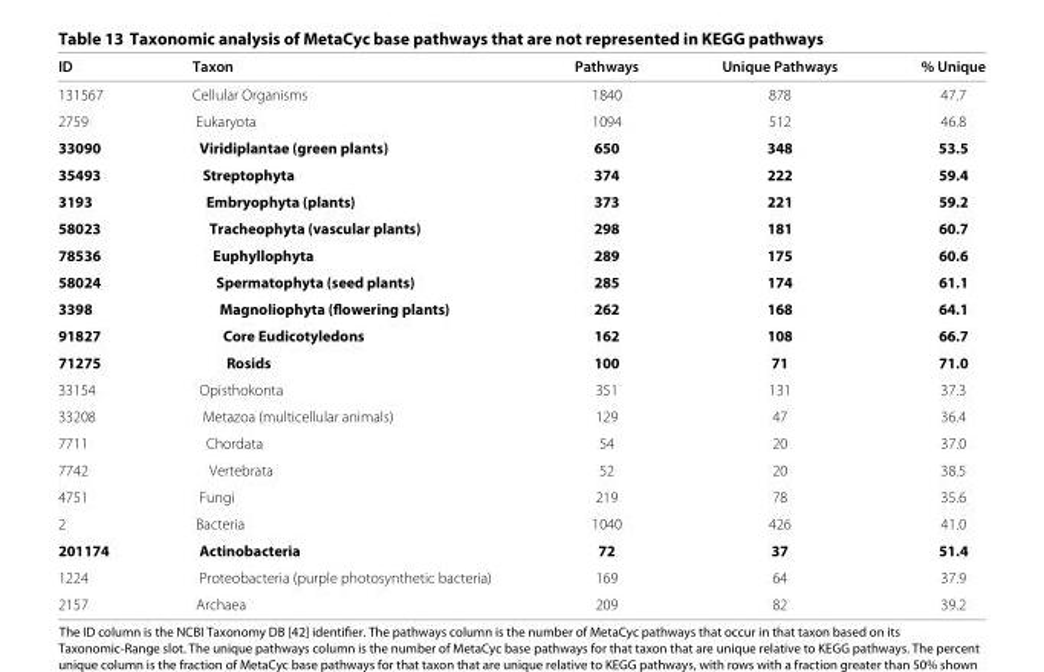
<table><thead><tr><td>ID</td><td>Taxon</td><td>Pathways</td><td>Unique Pathways</td><td>% Unique</td></tr></thead><tbody><tr><td>131567</td><td>Cellular Organisms</td><td>1840</td><td>878</td><td>47.7</td></tr><tr><td>2759</td><td>Eukaryota</td><td>1094</td><td>512</td><td>46.8</td></tr><tr><td>33090</td><td>Viridiplantae (green plants)</td><td>650</td><td>348</td><td>53.5</td></tr><tr><td>35493</td><td>Streptophyta</td><td>374</td><td>222</td><td>59.4</td></tr><tr><td>3193</td><td>Embryophyta (plants)</td><td>373</td><td>221</td><td>59.2</td></tr><tr><td>58023</td><td>Tracheophyta (vascular plants)</td><td>298</td><td>181</td><td>60.7</td></tr><tr><td>78536</td><td>Euphyllophyta</td><td>289</td><td>175</td><td>60.6</td></tr><tr><td>58024</td><td>Spermatophyta (seed plants)</td><td>285</td><td>174</td><td>61.1</td></tr><tr><td>3398</td><td>Magnoliophyta (flowering plants)</td><td>262</td><td>168</td><td>64.1</td></tr><tr><td>91827</td><td>Core Eudicotyledons</td><td>162</td><td>108</td><td>66.7</td></tr><tr><td>71275</td><td>Rosids</td><td>100</td><td>71</td><td>71.0</td></tr><tr><td>33154</td><td>Opisthokonta</td><td>351</td><td>131</td><td>37.3</td></tr><tr><td>33208</td><td>Metazoa (multicellular animals)</td><td>129</td><td>47</td><td>36.4</td></tr><tr><td>7711</td><td>Chordata</td><td>54</td><td>20</td><td>37.0</td></tr><tr><td>7742</td><td>Vertebrata</td><td>52</td><td>20</td><td>38.5</td></tr><tr><td>4751</td><td>Fungi</td><td>219</td><td>78</td><td>35.6</td></tr><tr><td>2</td><td>Bacteria</td><td>1040</td><td>426</td><td>41.0</td></tr><tr><td>201174</td><td>Actinobacteria</td><td>72</td><td>37</td><td>51.4</td></tr><tr><td>1224</td><td>Proteobacteria (purple photosynthetic bacteria)</td><td>169</td><td>64</td><td>37.9</td></tr><tr><td>2157</td><td>Archaea</td><td>209</td><td>82</td><td>39.2</td></tr></tbody></table>